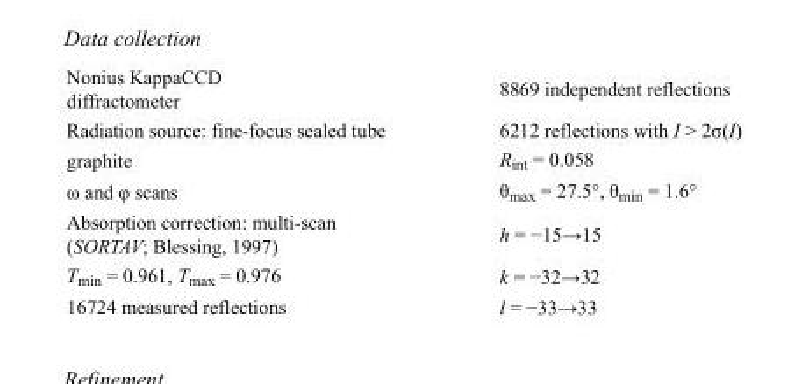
<table><tbody><tr><td>Nonius KappaCCD diffractometer</td><td>8869 independent reflections</td></tr><tr><td>Radiation source: fine-focus sealed tube</td><td>6212 reflections with I &gt; 2σ(I)</td></tr><tr><td>graphite</td><td>R<sub>int</sub> = 0.058</td></tr><tr><td>ω and φ scans</td><td>θ<sub>max</sub> = 27.5°, θ<sub>min</sub> = 1.6°</td></tr><tr><td>Absorption correction: multi-scan (SORTAV; Blessing, 1997)</td><td>h = −15→15</td></tr><tr><td>T<sub>min</sub> = 0.961, T<sub>max</sub> = 0.976</td><td>k = −32→32</td></tr><tr><td>16724 measured reflections</td><td>l = −33→33</td></tr></tbody></table>